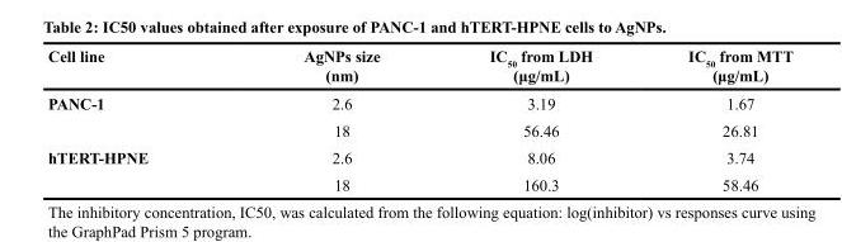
<table><thead><tr><td>Cell line</td><td>AgNPs size (nm)</td><td>IC<sub>50</sub> from LDH (μg/mL)</td><td>IC<sub>50</sub> from MTT (μg/mL)</td></tr></thead><tbody><tr><td rowspan="2">PANC-1</td><td>2.6</td><td>3.19</td><td>1.67</td></tr><tr><td>18</td><td>56.46</td><td>26.81</td></tr><tr><td rowspan="2">hTERT-HPNE</td><td>2.6</td><td>8.06</td><td>3.74</td></tr><tr><td>18</td><td>160.3</td><td>58.46</td></tr></tbody></table>